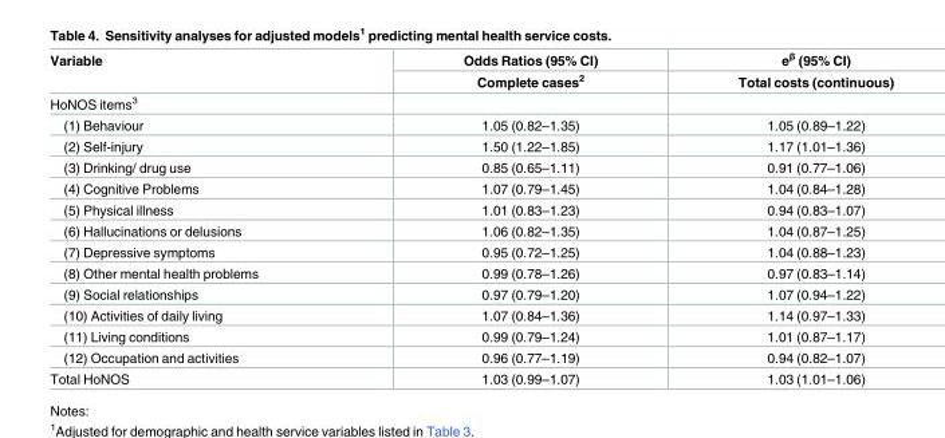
<table><thead><tr><td rowspan="2">Variable</td><td rowspan="2">Odds Ratios (95% CI) Complete cases<sup>2</sup></td><td rowspan="2">e<sup>β</sup> (95% CI) Total costs (continuous)</td></tr><tr></tr></thead><tbody><tr><td colspan="3">HoNOS items<sup>3</sup></td></tr><tr><td>(1) Behaviour</td><td>1.05 (0.82–1.35)</td><td>1.05 (0.89–1.22)</td></tr><tr><td>(2) Self-injury</td><td>1.50 (1.22–1.85)</td><td>1.17 (1.01–1.36)</td></tr><tr><td>(3) Drinking/ drug use</td><td>0.85 (0.65–1.11)</td><td>0.91 (0.77–1.06)</td></tr><tr><td>(4) Cognitive Problems</td><td>1.07 (0.79–1.45)</td><td>1.04 (0.84–1.28)</td></tr><tr><td>(5) Physical illness</td><td>1.01 (0.83–1.23)</td><td>0.94 (0.83–1.07)</td></tr><tr><td>(6) Hallucinations or delusions</td><td>1.06 (0.82–1.35)</td><td>1.04 (0.87–1.25)</td></tr><tr><td>(7) Depressive symptoms</td><td>0.95 (0.72–1.25)</td><td>1.04 (0.88–1.23)</td></tr><tr><td>(8) Other mental health problems</td><td>0.99 (0.78–1.26)</td><td>0.97 (0.83–1.14)</td></tr><tr><td>(9) Social relationships</td><td>0.97 (0.79–1.20)</td><td>1.07 (0.94–1.22)</td></tr><tr><td>(10) Activities of daily living</td><td>1.07 (0.84–1.36)</td><td>1.14 (0.97–1.33)</td></tr><tr><td>(11) Living conditions</td><td>0.99 (0.79–1.24)</td><td>1.01 (0.87–1.17)</td></tr><tr><td>(12) Occupation and activities</td><td>0.96 (0.77–1.19)</td><td>0.94 (0.82–1.07)</td></tr><tr><td>Total HoNOS</td><td>1.03 (0.99–1.07)</td><td>1.03 (1.01–1.06)</td></tr></tbody></table>